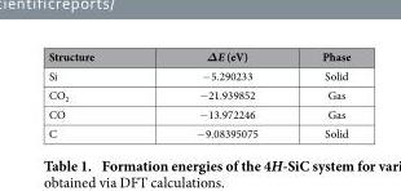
<table><thead><tr><td>Structure</td><td>ΔE (eV)</td><td>Phase</td></tr></thead><tbody><tr><td>Si</td><td>− 5.290233</td><td>Solid</td></tr><tr><td>CO<sub>2</sub></td><td>− 21.939852</td><td>Gas</td></tr><tr><td>CO</td><td>− 13.972246</td><td>Gas</td></tr><tr><td>C</td><td>− 9.08395075</td><td>Solid</td></tr></tbody></table>